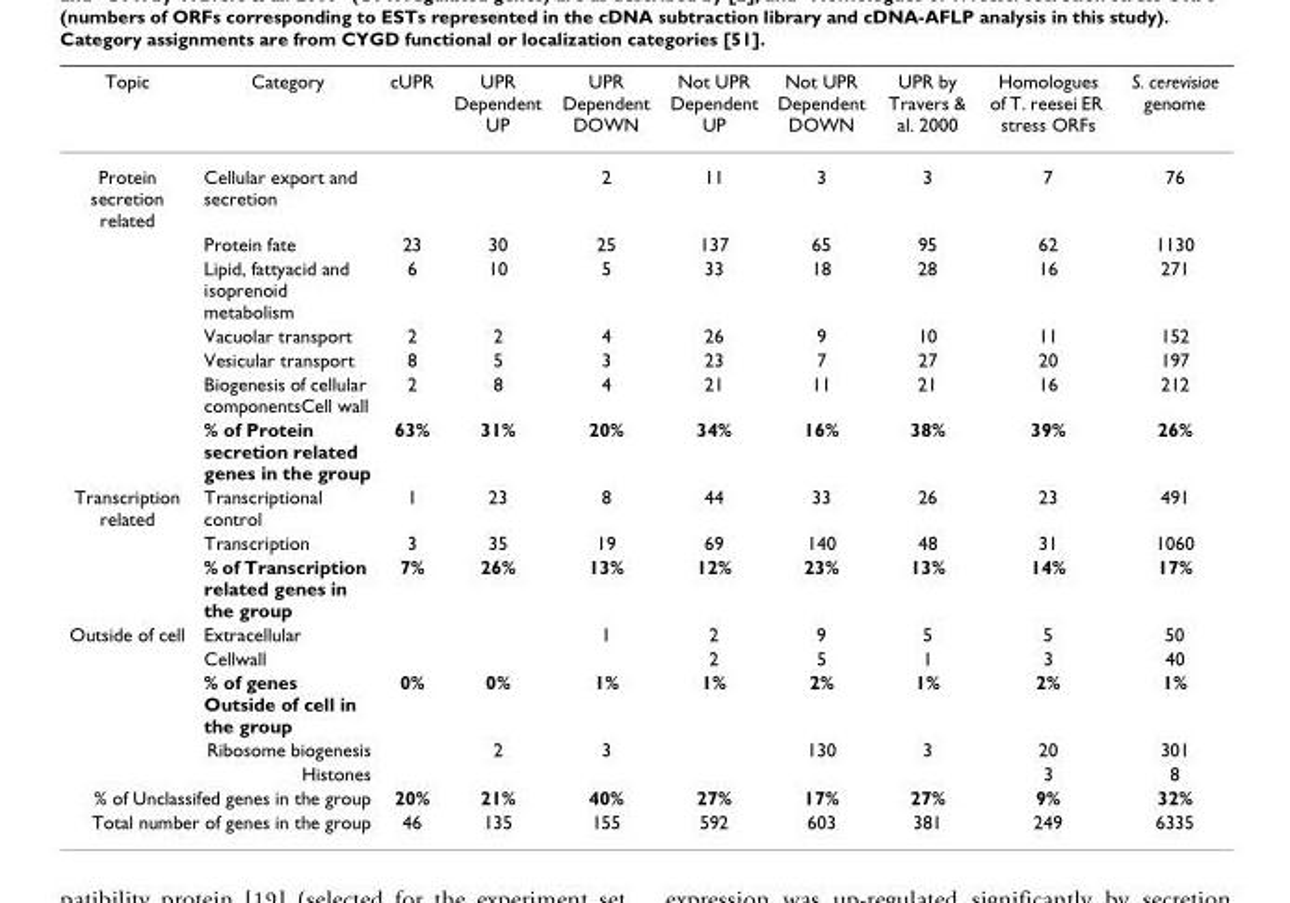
<table><thead><tr><td>Topic</td><td>Category</td><td>cUPR</td><td>UPR Dependent UP</td><td>UPR Dependent DOWN</td><td>Not UPR Dependent UP</td><td>Not UPR Dependent DOWN</td><td>UPR by Travers &amp; al. 2000</td><td>Homologues of T. reesei ER stress ORFs</td><td>S. cerevisiae genome</td></tr></thead><tbody><tr><td rowspan="7">Protein secretion related</td><td>Cellular export and secretion</td><td></td><td></td><td>2</td><td>11</td><td>3</td><td>3</td><td>7</td><td>76</td></tr><tr><td>Protein fate</td><td>23</td><td>30</td><td>25</td><td>137</td><td>65</td><td>95</td><td>62</td><td>1130</td></tr><tr><td>Lipid, fattyacid and isoprenoid metabolism</td><td>6</td><td>10</td><td>5</td><td>33</td><td>18</td><td>28</td><td>16</td><td>271</td></tr><tr><td>Vacuolar transport</td><td>2</td><td>2</td><td>4</td><td>26</td><td>9</td><td>10</td><td>11</td><td>152</td></tr><tr><td>Vesicular transport</td><td>8</td><td>5</td><td>3</td><td>23</td><td>7</td><td>27</td><td>20</td><td>197</td></tr><tr><td>Biogenesis of cellular componentsCell wall</td><td>2</td><td>8</td><td>4</td><td>21</td><td>11</td><td>21</td><td>16</td><td>212</td></tr><tr><td>% of Protein secretion related genes in the group</td><td>63%</td><td>31%</td><td>20%</td><td>34%</td><td>16%</td><td>38%</td><td>39%</td><td>26%</td></tr><tr><td rowspan="3">Transcription related</td><td>Transcriptional control</td><td>1</td><td>23</td><td>8</td><td>44</td><td>33</td><td>26</td><td>23</td><td>491</td></tr><tr><td>Transcription</td><td>3</td><td>35</td><td>19</td><td>69</td><td>140</td><td>48</td><td>31</td><td>1060</td></tr><tr><td>% of Transcription related genes in the group</td><td>7%</td><td>26%</td><td>13%</td><td>12%</td><td>23%</td><td>13%</td><td>14%</td><td>17%</td></tr><tr><td rowspan="3">Outside of cell</td><td>Extracellular</td><td></td><td></td><td>1</td><td>2</td><td>9</td><td>5</td><td>5</td><td>50</td></tr><tr><td>Cellwall</td><td></td><td></td><td></td><td>2</td><td>5</td><td>1</td><td>3</td><td>40</td></tr><tr><td>% of genes Outside of cell in the group</td><td>0%</td><td>0%</td><td>1%</td><td>1%</td><td>2%</td><td>1%</td><td>2%</td><td>1%</td></tr><tr><td colspan="2">Ribosome biogenesis</td><td></td><td>2</td><td>3</td><td></td><td>130</td><td>3</td><td>20</td><td>301</td></tr><tr><td colspan="2">Histones</td><td></td><td></td><td></td><td></td><td></td><td></td><td>3</td><td>8</td></tr><tr><td colspan="2">% of Unclassifed genes in the group</td><td>20%</td><td>21%</td><td>40%</td><td>27%</td><td>17%</td><td>27%</td><td>9%</td><td>32%</td></tr><tr><td colspan="2">Total number of genes in the group</td><td>46</td><td>135</td><td>155</td><td>592</td><td>603</td><td>381</td><td>249</td><td>6335</td></tr></tbody></table>